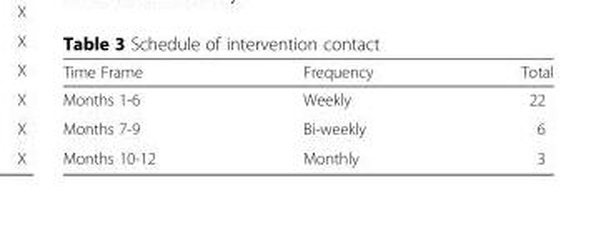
<table><thead><tr><td>Time Frame</td><td>Frequency</td><td>Total</td></tr></thead><tbody><tr><td>Months 1-6</td><td>Weekly</td><td>22</td></tr><tr><td>Months 7-9</td><td>Bi-weekly</td><td>6</td></tr><tr><td>Months 10-12</td><td>Monthly</td><td>3</td></tr></tbody></table>